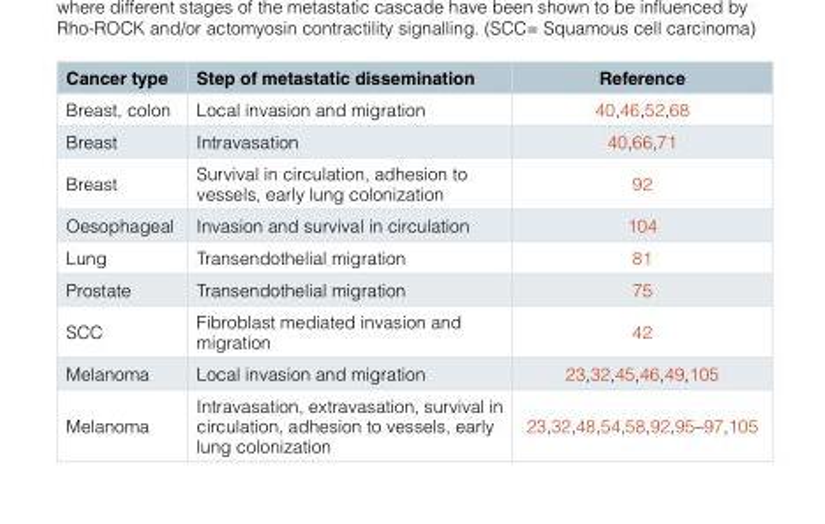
<table><thead><tr><td>Cancer type</td><td>Step of metastatic dissemination</td><td>Reference</td></tr></thead><tbody><tr><td>Breast, colon</td><td>Local invasion and migration</td><td>40,46,52,68</td></tr><tr><td>Breast</td><td>Intravasation</td><td>40,66,71</td></tr><tr><td>Breast</td><td>Survival in circulation, adhesion to vessels, early lung colonization</td><td>92</td></tr><tr><td>Oesophageal</td><td>Invasion and survival in circulation</td><td>104</td></tr><tr><td>Lung</td><td>Transendothelial migration</td><td>81</td></tr><tr><td>Prostate</td><td>Transendothelial migration</td><td>75</td></tr><tr><td>SCC</td><td>Fibroblast mediated invasion and migration</td><td>42</td></tr><tr><td>Melanoma</td><td>Local invasion and migration</td><td>23,32,45,46,49,105</td></tr><tr><td>Melanoma</td><td>Intravasation, extravasation, survival in circulation, adhesion to vessels, early lung colonization</td><td>23,32,48,54,58,92,95–97,105</td></tr></tbody></table>